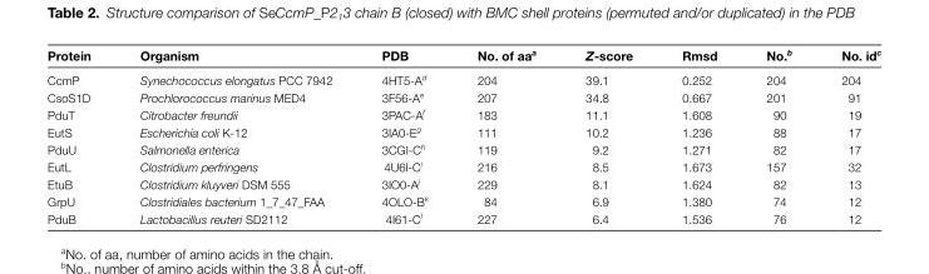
<table><thead><tr><td>Protein</td><td>Organism</td><td>PDB</td><td>No. of aa<sup>a</sup></td><td>Z-score</td><td>Rmsd</td><td>No.<sup>b</sup></td><td>No. id<sup>c</sup></td></tr></thead><tbody><tr><td>CcmP</td><td>Synechococcus elongatus PCC 7942</td><td>4HT5-A<sup>d</sup></td><td>204</td><td>39.1</td><td>0.252</td><td>204</td><td>204</td></tr><tr><td>CsoS1D</td><td>Prochlorococcus marinus MED4</td><td>3F56-A<sup>e</sup></td><td>207</td><td>34.8</td><td>0.667</td><td>201</td><td>91</td></tr><tr><td>PduT</td><td>Citrobacter freundii</td><td>3PAC-A<sup>f</sup></td><td>183</td><td>11.1</td><td>1.608</td><td>90</td><td>19</td></tr><tr><td>EutS</td><td>Escherichia coli K-12</td><td>3IA0-E<sup>g</sup></td><td>111</td><td>10.2</td><td>1.236</td><td>88</td><td>17</td></tr><tr><td>PduU</td><td>Salmonella enterica</td><td>3CGI-C<sup>h</sup></td><td>119</td><td>9.2</td><td>1.271</td><td>82</td><td>17</td></tr><tr><td>EutL</td><td>Clostridium perfringens</td><td>4U6I-C<sup>i</sup></td><td>216</td><td>8.5</td><td>1.673</td><td>157</td><td>32</td></tr><tr><td>EtuB</td><td>Clostridium kluyveri DSM 555</td><td>3IO0-A<sup>j</sup></td><td>229</td><td>8.1</td><td>1.624</td><td>82</td><td>13</td></tr><tr><td>GrpU</td><td>Clostridiales bacterium 1_7_47_FAA</td><td>4OLO-B<sup>k</sup></td><td>84</td><td>6.9</td><td>1.380</td><td>74</td><td>12</td></tr><tr><td>PduB</td><td>Lactobacillus reuteri SD2112</td><td>4I61-C<sup>l</sup></td><td>227</td><td>6.4</td><td>1.536</td><td>76</td><td>12</td></tr></tbody></table>